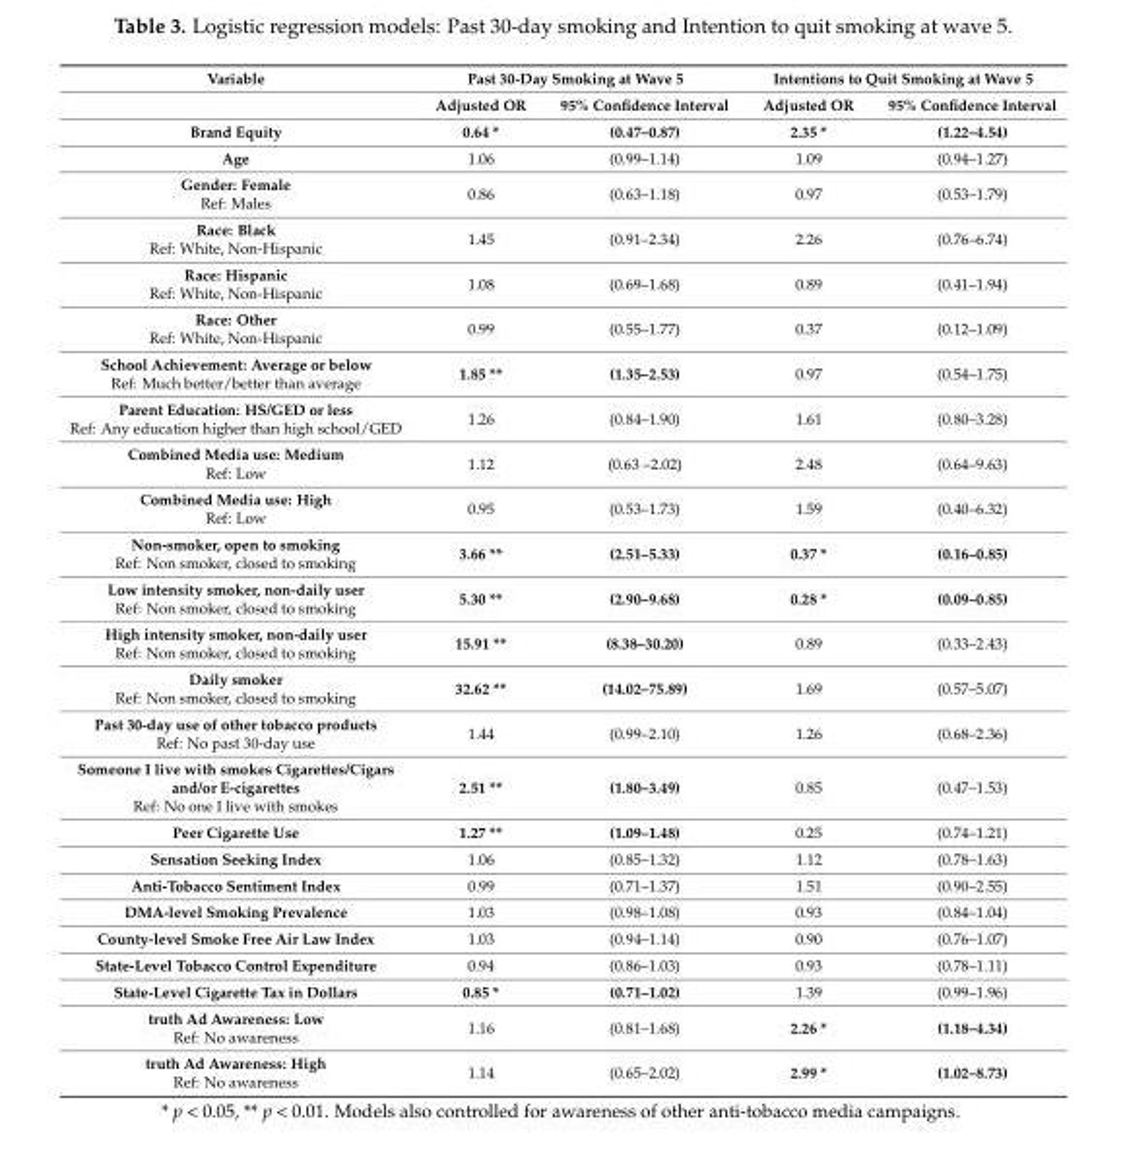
<table><thead><tr><td rowspan="2">Variable</td><td colspan="2">Past 30-Day Smoking at Wave 5</td><td colspan="2">Intentions to Quit Smoking at Wave 5</td></tr><tr><td>Adjusted OR</td><td>95% Confidence Interval</td><td>Adjusted OR</td><td>95% Confidence Interval</td></tr></thead><tbody><tr><td>Brand Equity</td><td>0.64 *</td><td>(0.47–0.87)</td><td>2.35 *</td><td>(1.22–4.54)</td></tr><tr><td>Age</td><td>1.06</td><td>(0.99–1.14)</td><td>1.09</td><td>(0.94–1.27)</td></tr><tr><td>Gender: Female Ref: Males</td><td>0.86</td><td>(0.63–1.18)</td><td>0.97</td><td>(0.53–1.79)</td></tr><tr><td>Race: Black Ref: White, Non-Hispanic</td><td>1.45</td><td>(0.91–2.34)</td><td>2.26</td><td>(0.76–6.74)</td></tr><tr><td>Race: Hispanic Ref: White, Non-Hispanic</td><td>1.08</td><td>(0.69–1.68)</td><td>0.89</td><td>(0.41–1.94)</td></tr><tr><td>Race: Other Ref: White, Non-Hispanic</td><td>0.99</td><td>(0.55–1.77)</td><td>0.37</td><td>(0.12–1.09)</td></tr><tr><td>School Achievement: Average or below Ref: Much better/better than average</td><td>1.85 **</td><td>(1.35–2.53)</td><td>0.97</td><td>(0.54–1.75)</td></tr><tr><td>Parent Education: HS/GED or less Ref: Any education higher than high school/GED</td><td>1.26</td><td>(0.84–1.90)</td><td>1.61</td><td>(0.80–3.28)</td></tr><tr><td>Combined Media use: Medium Ref: Low</td><td>1.12</td><td>(0.63 –2.02)</td><td>2.48</td><td>(0.64–9.63)</td></tr><tr><td>Combined Media use: High Ref: Low</td><td>0.95</td><td>(0.53–1.73)</td><td>1.59</td><td>(0.40–6.32)</td></tr><tr><td>Non-smoker, open to smoking Ref: Non smoker, closed to smoking</td><td>3.66 **</td><td>(2.51–5.33)</td><td>0.37 *</td><td>(0.16–0.85)</td></tr><tr><td>Low intensity smoker, non-daily user Ref: Non smoker, closed to smoking</td><td>5.30 **</td><td>(2.90–9.68)</td><td>0.28 *</td><td>(0.09–0.85)</td></tr><tr><td>High intensity smoker, non-daily user Ref: Non smoker, closed to smoking</td><td>15.91 **</td><td>(8.38–30.20)</td><td>0.89</td><td>(0.33–2.43)</td></tr><tr><td>Daily smoker Ref: Non smoker, closed to smoking</td><td>32.62 **</td><td>(14.02–75.89)</td><td>1.69</td><td>(0.57–5.07)</td></tr><tr><td>Past 30-day use of other tobacco products Ref: No past 30-day use</td><td>1.44</td><td>(0.99–2.10)</td><td>1.26</td><td>(0.68–2.36)</td></tr><tr><td>Someone I live with smokes Cigarettes/Cigars and/or E-cigarettes Ref: No one I live with smokes</td><td>2.51 **</td><td>(1.80–3.49)</td><td>0.85</td><td>(0.47–1.53)</td></tr><tr><td>Peer Cigarette Use</td><td>1.27 **</td><td>(1.09–1.48)</td><td>0.25</td><td>(0.74–1.21)</td></tr><tr><td>Sensation Seeking Index</td><td>1.06</td><td>(0.85–1.32)</td><td>1.12</td><td>(0.78–1.63)</td></tr><tr><td>Anti-Tobacco Sentiment Index</td><td>0.99</td><td>(0.71–1.37)</td><td>1.51</td><td>(0.90–2.55)</td></tr><tr><td>DMA-level Smoking Prevalence</td><td>1.03</td><td>(0.98–1.08)</td><td>0.93</td><td>(0.84–1.04)</td></tr><tr><td>County-level Smoke Free Air Law Index</td><td>1.03</td><td>(0.94–1.14)</td><td>0.90</td><td>(0.76–1.07)</td></tr><tr><td>State-Level Tobacco Control Expenditure</td><td>0.94</td><td>(0.86–1.03)</td><td>0.93</td><td>(0.78–1.11)</td></tr><tr><td>State-Level Cigarette Tax in Dollars</td><td>0.85 *</td><td>(0.71–1.02)</td><td>1.39</td><td>(0.99–1.96)</td></tr><tr><td>truth Ad Awareness: Low Ref: No awareness</td><td>1.16</td><td>(0.81–1.68)</td><td>2.26 *</td><td>(1.18–4.34)</td></tr><tr><td>truth Ad Awareness: High Ref: No awareness</td><td>1.14</td><td>(0.65–2.02)</td><td>2.99 *</td><td>(1.02–8.73)</td></tr></tbody></table>